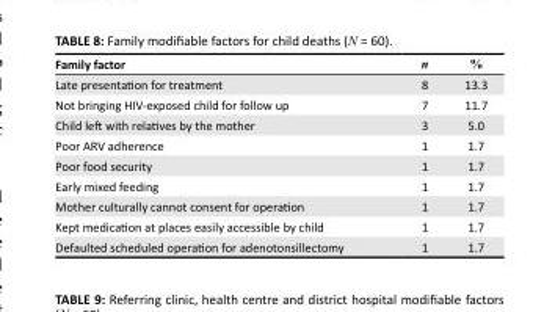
<table><thead><tr><td>Family factor</td><td>n</td><td>%</td></tr></thead><tbody><tr><td>Late presentation for treatment</td><td>8</td><td>13.3</td></tr><tr><td>Not bringing HIV-exposed child for follow up</td><td>7</td><td>11.7</td></tr><tr><td>Child left with relatives by the mother</td><td>3</td><td>5.0</td></tr><tr><td>Poor ARV adherence</td><td>1</td><td>1.7</td></tr><tr><td>Poor food security</td><td>1</td><td>1.7</td></tr><tr><td>Early mixed feeding</td><td>1</td><td>1.7</td></tr><tr><td>Mother culturally cannot consent for operation</td><td>1</td><td>1.7</td></tr><tr><td>Kept medication at places easily accessible by child</td><td>1</td><td>1.7</td></tr><tr><td>Defaulted scheduled operation for adenotonsillectomy</td><td>1</td><td>1.7</td></tr></tbody></table>